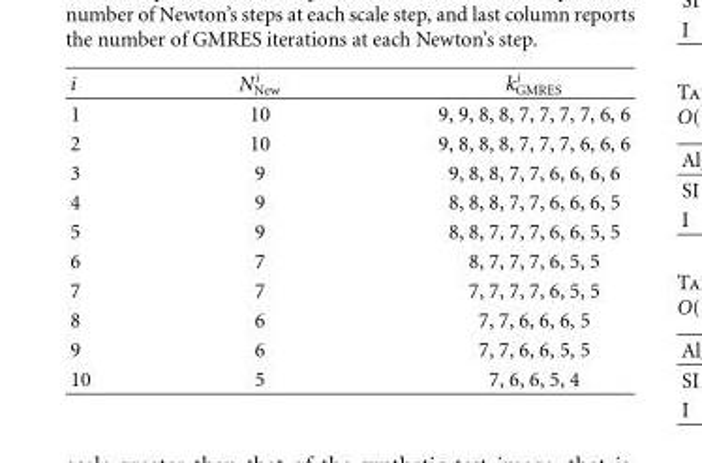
<table><thead><tr><td>i</td><td>Ni New</td><td>ki GMRES</td></tr></thead><tbody><tr><td>1</td><td>10</td><td>9, 9, 8, 8, 7, 7, 7, 7, 6, 6</td></tr><tr><td>2</td><td>10</td><td>9, 8, 8, 8, 7, 7, 7, 6, 6, 6</td></tr><tr><td>3</td><td>9</td><td>9, 8, 8, 7, 7, 6, 6, 6, 6</td></tr><tr><td>4</td><td>9</td><td>8, 8, 8, 7, 7, 6, 6, 6, 5</td></tr><tr><td>5</td><td>9</td><td>8, 8, 7, 7, 7, 6, 6, 5, 5</td></tr><tr><td>6</td><td>7</td><td>8, 7, 7, 7, 6, 5, 5</td></tr><tr><td>7</td><td>7</td><td>7, 7, 7, 7, 6, 5, 5</td></tr><tr><td>8</td><td>6</td><td>7, 7, 6, 6, 6, 5</td></tr><tr><td>9</td><td>6</td><td>7, 7, 6, 6, 5, 5</td></tr><tr><td>10</td><td>5</td><td>7, 6, 6, 5, 4</td></tr></tbody></table>